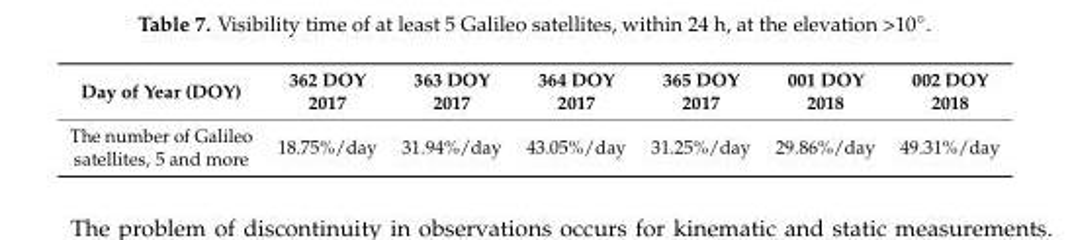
<table><thead><tr><td>Day of Year (DOY)</td><td>362 DOY 2017</td><td>363 DOY 2017</td><td>364 DOY 2017</td><td>365 DOY 2017</td><td>001 DOY 2018</td><td>002 DOY 2018</td></tr></thead><tbody><tr><td>The number of Galileo satellites, 5 and more</td><td>18.75%/day</td><td>31.94%/day</td><td>43.05%/day</td><td>31.25%/day</td><td>29.86%/day</td><td>49.31%/day</td></tr></tbody></table>